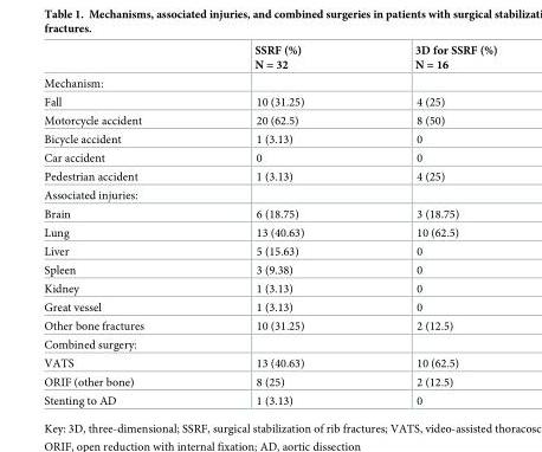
<table><thead><tr><td></td><td>SSRF (%) N = 32</td><td>3D for SSRF (%) N = 16</td></tr></thead><tbody><tr><td colspan="3">Mechanism:</td></tr><tr><td>Fall</td><td>10 (31.25)</td><td>4 (25)</td></tr><tr><td>Motorcycle accident</td><td>20 (62.5)</td><td>8 (50)</td></tr><tr><td>Bicycle accident</td><td>1 (3.13)</td><td>0</td></tr><tr><td>Car accident</td><td>0</td><td>0</td></tr><tr><td>Pedestrian accident</td><td>1 (3.13)</td><td>4 (25)</td></tr><tr><td colspan="3">Associated injuries:</td></tr><tr><td>Brain</td><td>6 (18.75)</td><td>3 (18.75)</td></tr><tr><td>Lung</td><td>13 (40.63)</td><td>10 (62.5)</td></tr><tr><td>Liver</td><td>5 (15.63)</td><td>0</td></tr><tr><td>Spleen</td><td>3 (9.38)</td><td>0</td></tr><tr><td>Kidney</td><td>1 (3.13)</td><td>0</td></tr><tr><td>Great vessel</td><td>1 (3.13)</td><td>0</td></tr><tr><td>Other bone fractures</td><td>10 (31.25)</td><td>2 (12.5)</td></tr><tr><td colspan="3">Combined surgery:</td></tr><tr><td>VATS</td><td>13 (40.63)</td><td>10 (62.5)</td></tr><tr><td>ORIF (other bone)</td><td>8 (25)</td><td>2 (12.5)</td></tr><tr><td>Stenting to AD</td><td>1 (3.13)</td><td>0</td></tr></tbody></table>